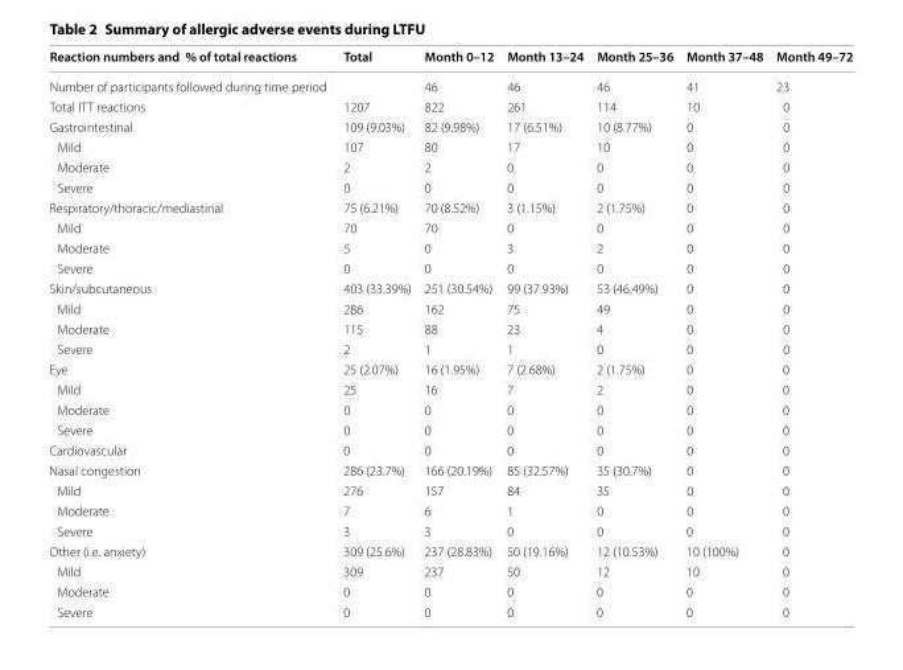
<table><thead><tr><td>Reaction numbers and % of total reactions</td><td>Total</td><td>Month 0–12</td><td>Month 13–24</td><td>Month 25–36</td><td>Month 37–48</td><td>Month 49–72</td></tr></thead><tbody><tr><td>Number of participants followed during time period</td><td></td><td>46</td><td>46</td><td>46</td><td>41</td><td>23</td></tr><tr><td>Total ITT reactions</td><td>1207</td><td>822</td><td>261</td><td>114</td><td>10</td><td>0</td></tr><tr><td>Gastrointestinal</td><td>109 (9.03%)</td><td>82 (9.98%)</td><td>17 (6.51%)</td><td>10 (8.77%)</td><td>0</td><td>0</td></tr><tr><td>Mild</td><td>107</td><td>80</td><td>17</td><td>10</td><td>0</td><td>0</td></tr><tr><td>Moderate</td><td>2</td><td>2</td><td>0</td><td>0</td><td>0</td><td>0</td></tr><tr><td>Severe</td><td>0</td><td>0</td><td>0</td><td>0</td><td>0</td><td>0</td></tr><tr><td>Respiratory/thoracic/mediastinal</td><td>75 (6.21%)</td><td>70 (8.52%)</td><td>3 (1.15%)</td><td>2 (1.75%)</td><td>0</td><td>0</td></tr><tr><td>Mild</td><td>70</td><td>70</td><td>0</td><td>0</td><td>0</td><td>0</td></tr><tr><td>Moderate</td><td>5</td><td>0</td><td>3</td><td>2</td><td>0</td><td>0</td></tr><tr><td>Severe</td><td>0</td><td>0</td><td>0</td><td>0</td><td>0</td><td>0</td></tr><tr><td>Skin/subcutaneous</td><td>403 (33.39%)</td><td>251 (30.54%)</td><td>99 (37.93%)</td><td>53 (46.49%)</td><td>0</td><td>0</td></tr><tr><td>Mild</td><td>286</td><td>162</td><td>75</td><td>49</td><td>0</td><td>0</td></tr><tr><td>Moderate</td><td>115</td><td>88</td><td>23</td><td>4</td><td>0</td><td>0</td></tr><tr><td>Severe</td><td>2</td><td>1</td><td>1</td><td>0</td><td>0</td><td>0</td></tr><tr><td>Eye</td><td>25 (2.07%)</td><td>16 (1.95%)</td><td>7 (2.68%)</td><td>2 (1.75%)</td><td>0</td><td>0</td></tr><tr><td>Mild</td><td>25</td><td>16</td><td>7</td><td>2</td><td>0</td><td>0</td></tr><tr><td>Moderate</td><td>0</td><td>0</td><td>0</td><td>0</td><td>0</td><td>0</td></tr><tr><td>Severe</td><td>0</td><td>0</td><td>0</td><td>0</td><td>0</td><td>0</td></tr><tr><td>Cardiovascular</td><td>0</td><td>0</td><td>0</td><td>0</td><td>0</td><td>0</td></tr><tr><td>Nasal congestion</td><td>286 (23.7%)</td><td>166 (20.19%)</td><td>85 (32.57%)</td><td>35 (30.7%)</td><td>0</td><td>0</td></tr><tr><td>Mild</td><td>276</td><td>157</td><td>84</td><td>35</td><td>0</td><td>0</td></tr><tr><td>Moderate</td><td>7</td><td>6</td><td>1</td><td>0</td><td>0</td><td>0</td></tr><tr><td>Severe</td><td>3</td><td>3</td><td>0</td><td>0</td><td>0</td><td>0</td></tr><tr><td>Other (i.e. anxiety)</td><td>309 (25.6%)</td><td>237 (28.83%)</td><td>50 (19.16%)</td><td>12 (10.53%)</td><td>10 (100%)</td><td>0</td></tr><tr><td>Mild</td><td>309</td><td>237</td><td>50</td><td>12</td><td>10</td><td>0</td></tr><tr><td>Moderate</td><td>0</td><td>0</td><td>0</td><td>0</td><td>0</td><td>0</td></tr><tr><td>Severe</td><td>0</td><td>0</td><td>0</td><td>0</td><td>0</td><td>0</td></tr></tbody></table>